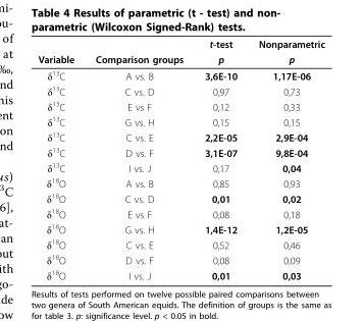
<table><thead><tr><td rowspan="2">Variable</td><td rowspan="2">Comparison groups</td><td rowspan="2">t-test p</td><td rowspan="2">Nonparametric p</td></tr><tr></tr></thead><tbody><tr><td>δ<sup>13</sup>C</td><td>A vs. B</td><td>3,6E-10</td><td>1,17E-06</td></tr><tr><td>δ<sup>13</sup>C</td><td>C vs. D</td><td>0,97</td><td>0,73</td></tr><tr><td>δ<sup>13</sup>C</td><td>E vs F</td><td>0,12</td><td>0,33</td></tr><tr><td>δ<sup>13</sup>C</td><td>G vs. H</td><td>0,15</td><td>0,15</td></tr><tr><td>δ<sup>13</sup>C</td><td>C vs. E</td><td>2,2E-05</td><td>2,9E-04</td></tr><tr><td>δ<sup>13</sup>C</td><td>D vs. F</td><td>3,1E-07</td><td>9,8E-04</td></tr><tr><td>δ<sup>13</sup>C</td><td>I vs. J</td><td>0,17</td><td>0,04</td></tr><tr><td>δ<sup>18</sup>O</td><td>A vs. B</td><td>0,85</td><td>0,93</td></tr><tr><td>δ<sup>18</sup>O</td><td>C vs. D</td><td>0,01</td><td>0,02</td></tr><tr><td>δ<sup>18</sup>O</td><td>E vs F</td><td>0,08</td><td>0,18</td></tr><tr><td>δ<sup>18</sup>O</td><td>G vs. H</td><td>1,4E-12</td><td>1,2E-05</td></tr><tr><td>δ<sup>18</sup>O</td><td>C vs. E</td><td>0,52</td><td>0,46</td></tr><tr><td>δ<sup>18</sup>O</td><td>D vs. F</td><td>0,08</td><td>0,09</td></tr><tr><td>δ<sup>18</sup>O</td><td>I vs. J</td><td>0,01</td><td>0,03</td></tr></tbody></table>